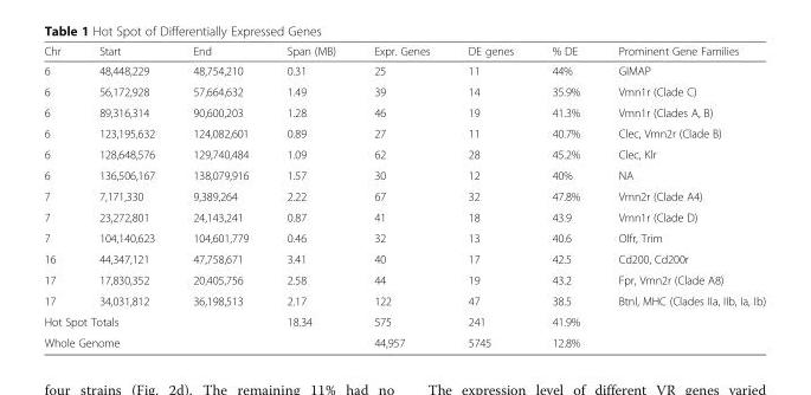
<table><thead><tr><td>Chr</td><td>Start</td><td>End</td><td>Span (MB)</td><td>Expr. Genes</td><td>DE genes</td><td>% DE</td><td>Prominent Gene Families</td></tr></thead><tbody><tr><td>6</td><td>48,448,229</td><td>48,754,210</td><td>0.31</td><td>25</td><td>11</td><td>44%</td><td>GIMAP</td></tr><tr><td>6</td><td>56,172,928</td><td>57,664,632</td><td>1.49</td><td>39</td><td>14</td><td>35.9%</td><td>Vmn1r (Clade C)</td></tr><tr><td>6</td><td>89,316,314</td><td>90,600,203</td><td>1.28</td><td>46</td><td>19</td><td>41.3%</td><td>Vmn1r (Clades A, B)</td></tr><tr><td>6</td><td>123,195,632</td><td>124,082,601</td><td>0.89</td><td>27</td><td>11</td><td>40.7%</td><td>Clec, Vmn2r (Clade B)</td></tr><tr><td>6</td><td>128,648,576</td><td>129,740,484</td><td>1.09</td><td>62</td><td>28</td><td>45.2%</td><td>Clec, Klr</td></tr><tr><td>6</td><td>136,506,167</td><td>138,079,916</td><td>1.57</td><td>30</td><td>12</td><td>40%</td><td>NA</td></tr><tr><td>7</td><td>7,171,330</td><td>9,389,264</td><td>2.22</td><td>67</td><td>32</td><td>47.8%</td><td>Vmn2r (Clade A4)</td></tr><tr><td>7</td><td>23,272,801</td><td>24,143,241</td><td>0.87</td><td>41</td><td>18</td><td>43.9</td><td>Vmn1r (Clade D)</td></tr><tr><td>7</td><td>104,140,623</td><td>104,601,779</td><td>0.46</td><td>32</td><td>13</td><td>40.6</td><td>Olfr, Trim</td></tr><tr><td>16</td><td>44,347,121</td><td>47,758,671</td><td>3.41</td><td>40</td><td>17</td><td>42.5</td><td>Cd200, Cd200r</td></tr><tr><td>17</td><td>17,830,352</td><td>20,405,756</td><td>2.58</td><td>44</td><td>19</td><td>43.2</td><td>Fpr, Vmn2r (Clade A8)</td></tr><tr><td>17</td><td>34,031,812</td><td>36,198,513</td><td>2.17</td><td>122</td><td>47</td><td>38.5</td><td>Btnl, MHC (Clades IIa, IIb, Ia, Ib)</td></tr><tr><td colspan="3">Hot Spot Totals</td><td>18.34</td><td>575</td><td>241</td><td>41.9%</td><td></td></tr><tr><td colspan="3">Whole Genome</td><td></td><td>44,957</td><td>5745</td><td>12.8%</td><td></td></tr></tbody></table>